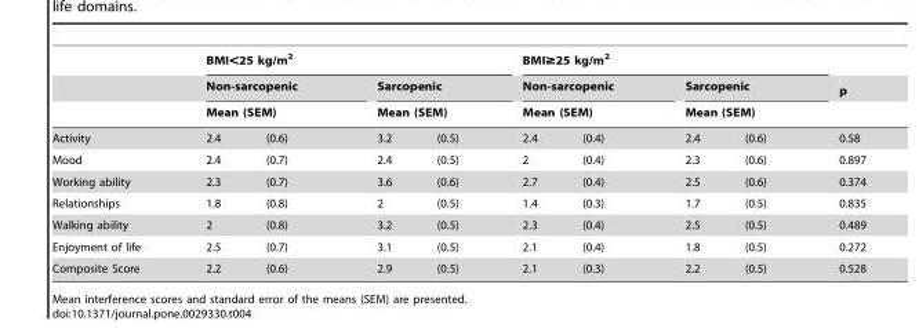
<table><thead><tr><td rowspan="4">Activity</td><td colspan="4">BMI&lt;25 kg/m<sup>2</sup></td><td colspan="4">BMI≥25 kg/m<sup>2</sup></td><td rowspan="4">p 0.58</td></tr><tr><td rowspan="2" colspan="2">Non-sarcopenic Mean (SEM)</td><td rowspan="2" colspan="2">Sarcopenic Mean (SEM)</td><td rowspan="2" colspan="2">Non-sarcopenic Mean (SEM)</td><td rowspan="2" colspan="2">Sarcopenic Mean (SEM)</td></tr><tr></tr><tr><td>2.4</td><td>(0.6)</td><td>3.2</td><td>(0.5)</td><td>2.4</td><td>(0.4)</td><td>2.4</td><td>(0.6)</td></tr></thead><tbody><tr><td>Mood</td><td>2.4</td><td>(0.7)</td><td>2.4</td><td>(0.5)</td><td>2</td><td>(0.4)</td><td>2.3</td><td>(0.6)</td><td>0.897</td></tr><tr><td>Working ability</td><td>2.3</td><td>(0.7)</td><td>3.6</td><td>(0.6)</td><td>2.7</td><td>(0.4)</td><td>2.5</td><td>(0.6)</td><td>0.374</td></tr><tr><td>Relationships</td><td>1.8</td><td>(0.8)</td><td>2</td><td>(0.5)</td><td>1.4</td><td>(0.3)</td><td>1.7</td><td>(0.5)</td><td>0.835</td></tr><tr><td>Walking ability</td><td>2</td><td>(0.8)</td><td>3.2</td><td>(0.5)</td><td>2.3</td><td>(0.4)</td><td>2.5</td><td>(0.5)</td><td>0.489</td></tr><tr><td>Enjoyment of life</td><td>2.5</td><td>(0.7)</td><td>3.1</td><td>(0.5)</td><td>2.1</td><td>(0.4)</td><td>1.8</td><td>(0.5)</td><td>0.272</td></tr><tr><td>Composite Score</td><td>2.2</td><td>(0.6)</td><td>2.9</td><td>(0.5)</td><td>2.1</td><td>(0.3)</td><td>2.2</td><td>(0.5)</td><td>0.528</td></tr></tbody></table>